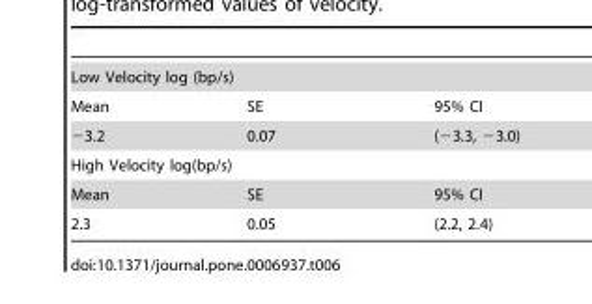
<table><tbody><tr><td colspan="3">Low Velocity log (bp/s)</td></tr><tr><td>Mean</td><td>SE</td><td>95% CI</td></tr><tr><td>−3.2</td><td>0.07</td><td>(−3.3, −3.0)</td></tr><tr><td colspan="3">High Velocity log(bp/s)</td></tr><tr><td>Mean</td><td>SE</td><td>95% CI</td></tr><tr><td>2.3</td><td>0.05</td><td>(2.2, 2.4)</td></tr></tbody></table>